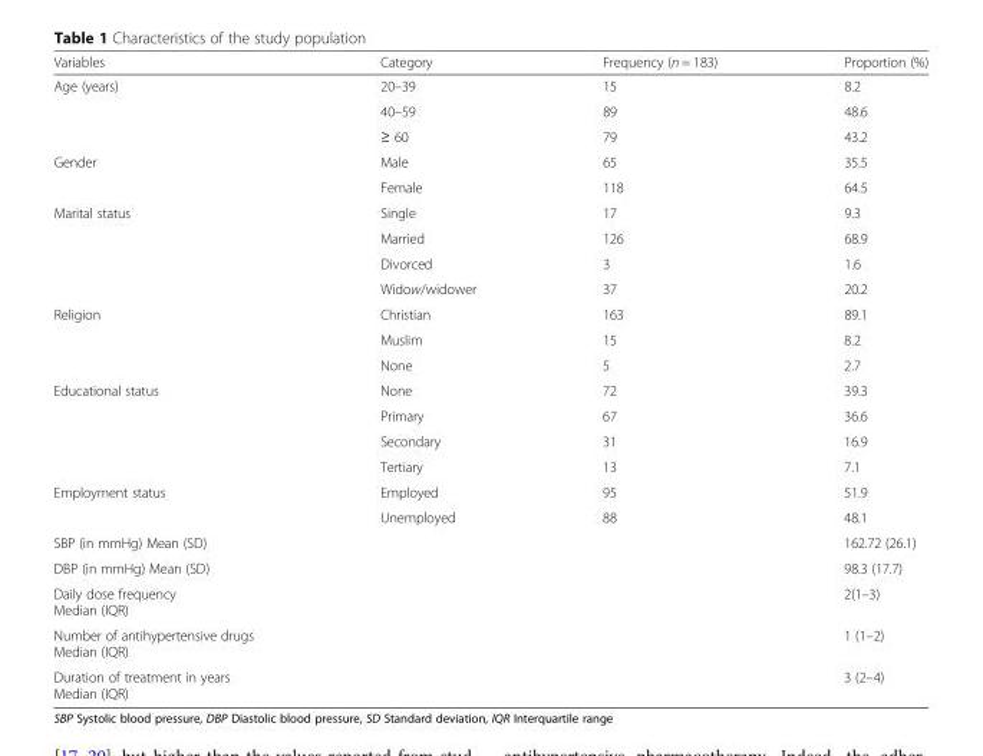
<table><thead><tr><td>Variables</td><td>Category</td><td>Frequency (n = 183)</td><td>Proportion (%)</td></tr></thead><tbody><tr><td rowspan="3">Age (years)</td><td>20–39</td><td>15</td><td>8.2</td></tr><tr><td>40–59</td><td>89</td><td>48.6</td></tr><tr><td>≥ 60</td><td>79</td><td>43.2</td></tr><tr><td rowspan="2">Gender</td><td>Male</td><td>65</td><td>35.5</td></tr><tr><td>Female</td><td>118</td><td>64.5</td></tr><tr><td rowspan="4">Marital status</td><td>Single</td><td>17</td><td>9.3</td></tr><tr><td>Married</td><td>126</td><td>68.9</td></tr><tr><td>Divorced</td><td>3</td><td>1.6</td></tr><tr><td>Widow/widower</td><td>37</td><td>20.2</td></tr><tr><td rowspan="3">Religion</td><td>Christian</td><td>163</td><td>89.1</td></tr><tr><td>Muslim</td><td>15</td><td>8.2</td></tr><tr><td>None</td><td>5</td><td>2.7</td></tr><tr><td rowspan="4">Educational status</td><td>None</td><td>72</td><td>39.3</td></tr><tr><td>Primary</td><td>67</td><td>36.6</td></tr><tr><td>Secondary</td><td>31</td><td>16.9</td></tr><tr><td>Tertiary</td><td>13</td><td>7.1</td></tr><tr><td rowspan="2">Employment status</td><td>Employed</td><td>95</td><td>51.9</td></tr><tr><td>Unemployed</td><td>88</td><td>48.1</td></tr><tr><td>SBP (in mmHg) Mean (SD)</td><td></td><td></td><td>162.72 (26.1)</td></tr><tr><td>DBP (in mmHg) Mean (SD)</td><td></td><td></td><td>98.3 (17.7)</td></tr><tr><td>Daily dose frequency Median (IQR)</td><td></td><td></td><td>2(1–3)</td></tr><tr><td>Number of antihypertensive drugs Median (IQR)</td><td></td><td></td><td>1 (1–2)</td></tr><tr><td>Duration of treatment in years Median (IQR)</td><td></td><td></td><td>3 (2–4)</td></tr></tbody></table>